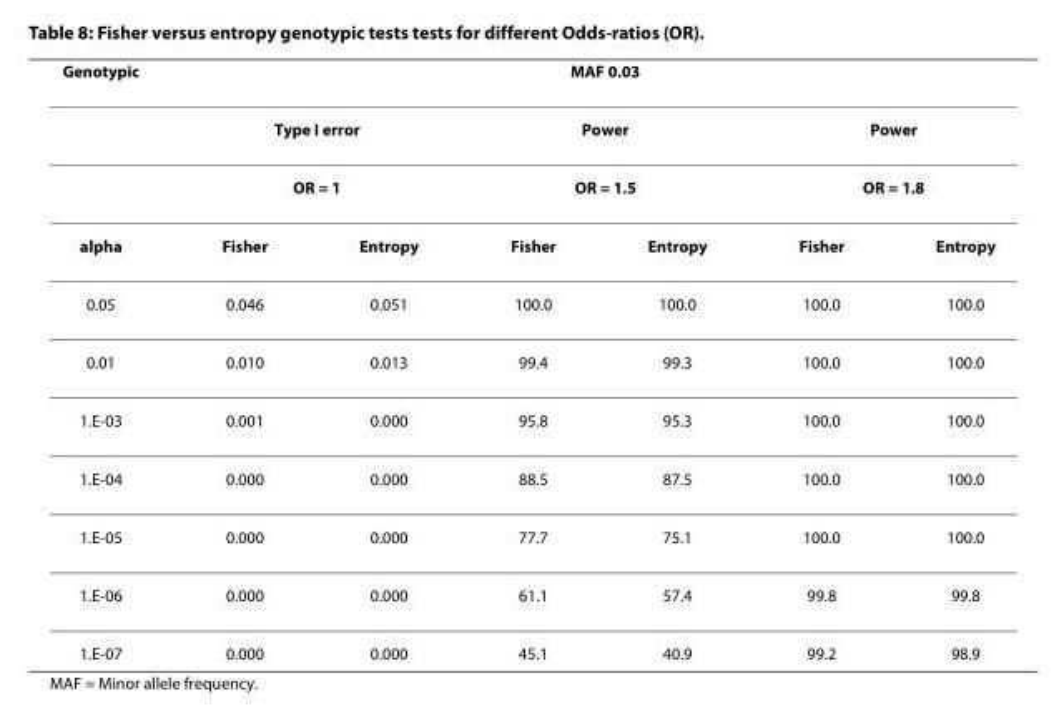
<table><thead><tr><td rowspan="4">Genotypic alpha</td><td colspan="6">MAF 0.03</td></tr><tr><td rowspan="2" colspan="2">Type I error OR = 1</td><td rowspan="2" colspan="2">Power OR = 1.5</td><td rowspan="2" colspan="2">Power OR = 1.8</td></tr><tr></tr><tr><td>Fisher</td><td>Entropy</td><td>Fisher</td><td>Entropy</td><td>Fisher</td><td>Entropy</td></tr></thead><tbody><tr><td>0.05</td><td>0.046</td><td>0.051</td><td>100.0</td><td>100.0</td><td>100.0</td><td>100.0</td></tr><tr><td>0.01</td><td>0.010</td><td>0.013</td><td>99.4</td><td>99.3</td><td>100.0</td><td>100.0</td></tr><tr><td>1.E-03</td><td>0.001</td><td>0.000</td><td>95.8</td><td>95.3</td><td>100.0</td><td>100.0</td></tr><tr><td>1.E-04</td><td>0.000</td><td>0.000</td><td>88.5</td><td>87.5</td><td>100.0</td><td>100.0</td></tr><tr><td>1.E-05</td><td>0.000</td><td>0.000</td><td>77.7</td><td>75.1</td><td>100.0</td><td>100.0</td></tr><tr><td>1.E-06</td><td>0.000</td><td>0.000</td><td>61.1</td><td>57.4</td><td>99.8</td><td>99.8</td></tr><tr><td>1.E-07</td><td>0.000</td><td>0.000</td><td>45.1</td><td>40.9</td><td>99.2</td><td>98.9</td></tr></tbody></table>